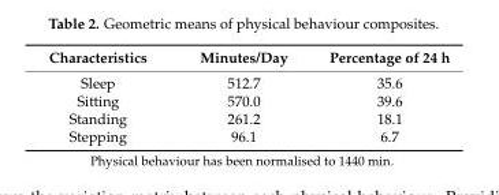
<table><thead><tr><td>Characteristics</td><td>Minutes/Day</td><td>Percentage of 24 h</td></tr></thead><tbody><tr><td>Sleep</td><td>512.7</td><td>35.6</td></tr><tr><td>Sitting</td><td>570.0</td><td>39.6</td></tr><tr><td>Standing</td><td>261.2</td><td>18.1</td></tr><tr><td>Stepping</td><td>96.1</td><td>6.7</td></tr></tbody></table>